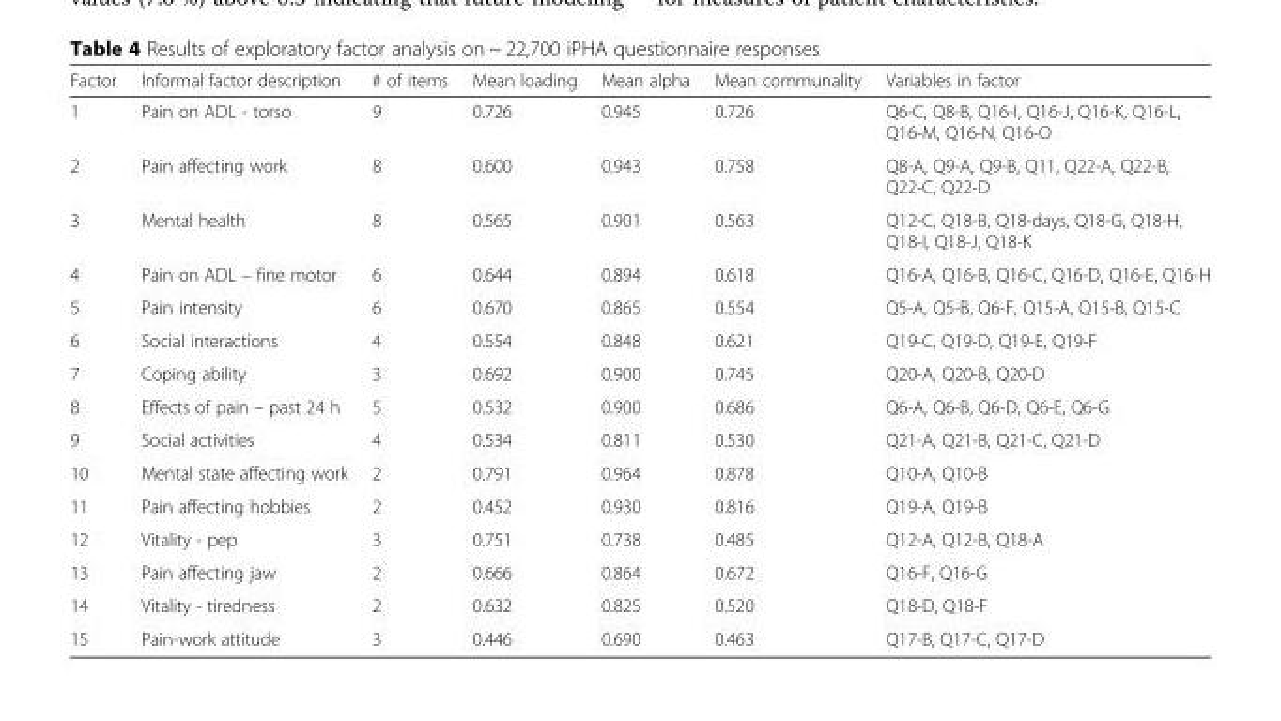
<table><thead><tr><td>Factor</td><td>Informal factor description</td><td># of items</td><td>Mean loading</td><td>Mean alpha</td><td>Mean communality</td><td>Variables in factor</td></tr></thead><tbody><tr><td>1</td><td>Pain on ADL - torso</td><td>9</td><td>0.726</td><td>0.945</td><td>0.726</td><td>Q6-C, Q8-B, Q16-I, Q16-J, Q16-K, Q16-L, Q16-M, Q16-N, Q16-O</td></tr><tr><td>2</td><td>Pain affecting work</td><td>8</td><td>0.600</td><td>0.943</td><td>0.758</td><td>Q8-A, Q9-A, Q9-B, Q11, Q22-A, Q22-B, Q22-C, Q22-D</td></tr><tr><td>3</td><td>Mental health</td><td>8</td><td>0.565</td><td>0.901</td><td>0.563</td><td>Q12-C, Q18-B, Q18-days, Q18-G, Q18-H, Q18-I, Q18-J, Q18-K</td></tr><tr><td>4</td><td>Pain on ADL – fine motor</td><td>6</td><td>0.644</td><td>0.894</td><td>0.618</td><td>Q16-A, Q16-B, Q16-C, Q16-D, Q16-E, Q16-H</td></tr><tr><td>5</td><td>Pain intensity</td><td>6</td><td>0.670</td><td>0.865</td><td>0.554</td><td>Q5-A, Q5-B, Q6-F, Q15-A, Q15-B, Q15-C</td></tr><tr><td>6</td><td>Social interactions</td><td>4</td><td>0.554</td><td>0.848</td><td>0.621</td><td>Q19-C, Q19-D, Q19-E, Q19-F</td></tr><tr><td>7</td><td>Coping ability</td><td>3</td><td>0.692</td><td>0.900</td><td>0.745</td><td>Q20-A, Q20-B, Q20-D</td></tr><tr><td>8</td><td>Effects of pain – past 24 h</td><td>5</td><td>0.532</td><td>0.900</td><td>0.686</td><td>Q6-A, Q6-B, Q6-D, Q6-E, Q6-G</td></tr><tr><td>9</td><td>Social activities</td><td>4</td><td>0.534</td><td>0.811</td><td>0.530</td><td>Q21-A, Q21-B, Q21-C, Q21-D</td></tr><tr><td>10</td><td>Mental state affecting work</td><td>2</td><td>0.791</td><td>0.964</td><td>0.878</td><td>Q10-A, Q10-B</td></tr><tr><td>11</td><td>Pain affecting hobbies</td><td>2</td><td>0.452</td><td>0.930</td><td>0.816</td><td>Q19-A, Q19-B</td></tr><tr><td>12</td><td>Vitality - pep</td><td>3</td><td>0.751</td><td>0.738</td><td>0.485</td><td>Q12-A, Q12-B, Q18-A</td></tr><tr><td>13</td><td>Pain affecting jaw</td><td>2</td><td>0.666</td><td>0.864</td><td>0.672</td><td>Q16-F, Q16-G</td></tr><tr><td>14</td><td>Vitality - tiredness</td><td>2</td><td>0.632</td><td>0.825</td><td>0.520</td><td>Q18-D, Q18-F</td></tr><tr><td>15</td><td>Pain-work attitude</td><td>3</td><td>0.446</td><td>0.690</td><td>0.463</td><td>Q17-B, Q17-C, Q17-D</td></tr></tbody></table>